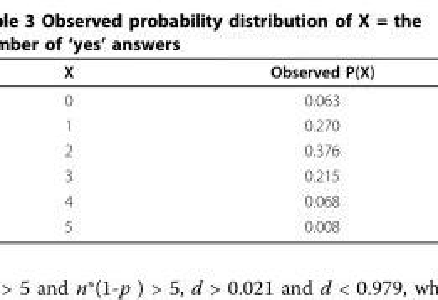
<table><thead><tr><td>X</td><td>Observed P(X)</td></tr></thead><tbody><tr><td>0</td><td>0.063</td></tr><tr><td>1</td><td>0.270</td></tr><tr><td>2</td><td>0.376</td></tr><tr><td>3</td><td>0.215</td></tr><tr><td>4</td><td>0.068</td></tr><tr><td>5</td><td>0.008</td></tr></tbody></table>